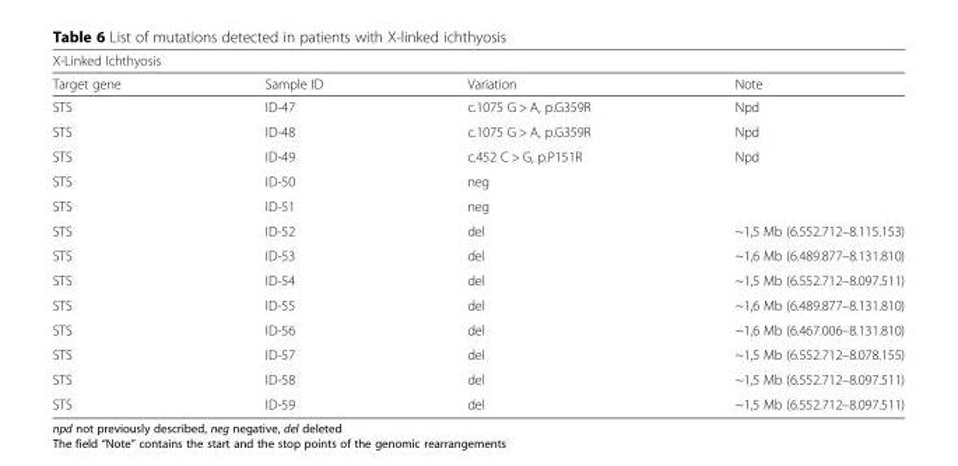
<table><thead><tr><td colspan="4">X-Linked Ichthyosis</td></tr><tr><td>Target gene</td><td>Sample ID</td><td>Variation</td><td>Note</td></tr></thead><tbody><tr><td>STS</td><td>ID-47</td><td>c.1075 G &gt; A, p.G359R</td><td>Npd</td></tr><tr><td>STS</td><td>ID-48</td><td>c.1075 G &gt; A, p.G359R</td><td>Npd</td></tr><tr><td>STS</td><td>ID-49</td><td>c.452 C &gt; G, p.P151R</td><td>Npd</td></tr><tr><td>STS</td><td>ID-50</td><td>neg</td><td></td></tr><tr><td>STS</td><td>ID-51</td><td>neg</td><td></td></tr><tr><td>STS</td><td>ID-52</td><td>del</td><td>~1,5 Mb (6.552.712–8.115.153)</td></tr><tr><td>STS</td><td>ID-53</td><td>del</td><td>~1,6 Mb (6.489.877–8.131.810)</td></tr><tr><td>STS</td><td>ID-54</td><td>del</td><td>~1,5 Mb (6.552.712–8.097.511)</td></tr><tr><td>STS</td><td>ID-55</td><td>del</td><td>~1,6 Mb (6.489.877–8.131.810)</td></tr><tr><td>STS</td><td>ID-56</td><td>del</td><td>~1,6 Mb (6.467.006–8.131.810)</td></tr><tr><td>STS</td><td>ID-57</td><td>del</td><td>~1,5 Mb (6.552.712–8.078.155)</td></tr><tr><td>STS</td><td>ID-58</td><td>del</td><td>~1,5 Mb (6.552.712–8.097.511)</td></tr><tr><td>STS</td><td>ID-59</td><td>del</td><td>~1,5 Mb (6.552.712–8.097.511)</td></tr></tbody></table>